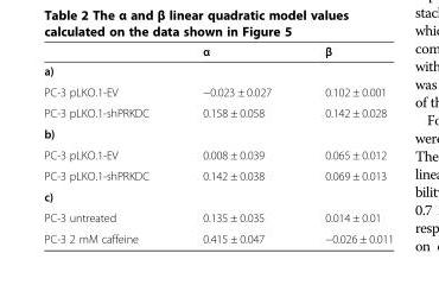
<table><thead><tr><td></td><td>α</td><td>β</td></tr></thead><tbody><tr><td colspan="3">a)</td></tr><tr><td>PC-3 pLKO.1-EV</td><td>−0.023 ± 0.027</td><td>0.102 ± 0.001</td></tr><tr><td>PC-3 pLKO.1-shPRKDC</td><td>0.158 ± 0.058</td><td>0.142 ± 0.028</td></tr><tr><td colspan="3">b)</td></tr><tr><td>PC-3 pLKO.1-EV</td><td>0.008 ± 0.039</td><td>0.065 ± 0.012</td></tr><tr><td>PC-3 pLKO.1-shPRKDC</td><td>0.142 ± 0.038</td><td>0.069 ± 0.013</td></tr><tr><td colspan="3">c)</td></tr><tr><td>PC-3 untreated</td><td>0.135 ± 0.035</td><td>0.014 ± 0.01</td></tr><tr><td>PC-3 2 mM caffeine</td><td>0.415 ± 0.047</td><td>−0.026 ± 0.011</td></tr></tbody></table>